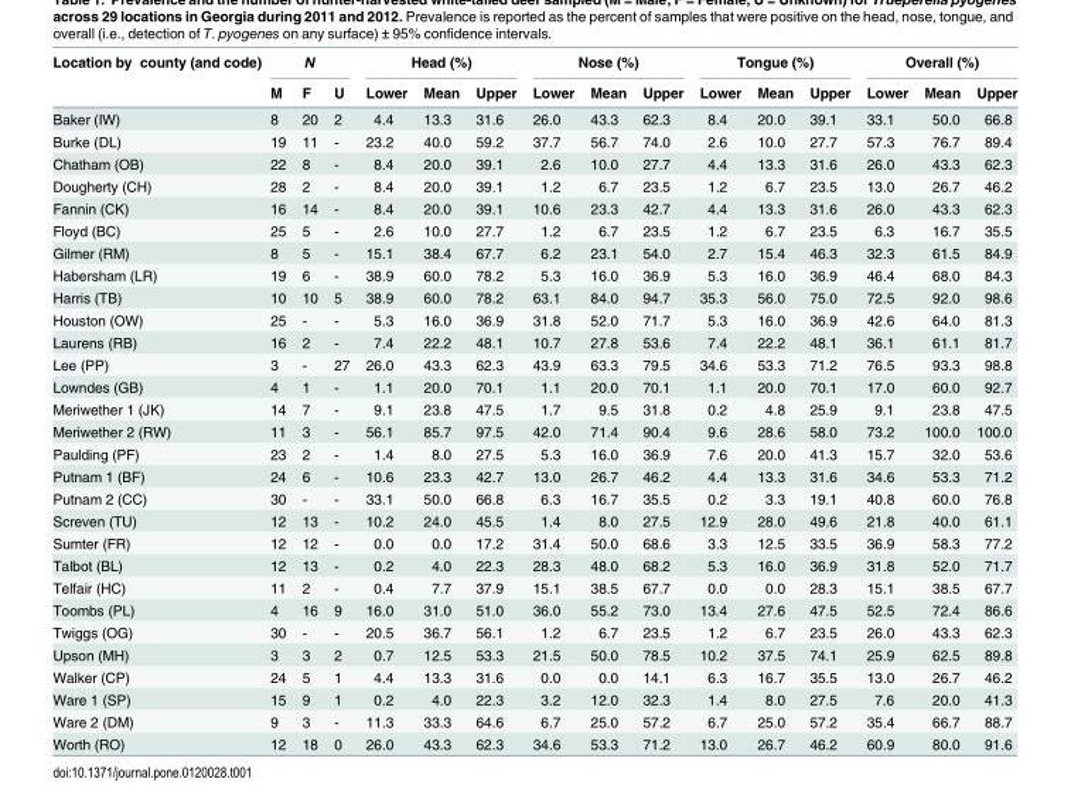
<table><thead><tr><td rowspan="2">Location by county (and code)</td><td colspan="3">N</td><td colspan="3">Head (%)</td><td colspan="3">Nose (%)</td><td colspan="3">Tongue (%)</td><td colspan="3">Overall (%)</td></tr><tr><td>M</td><td>F</td><td>U</td><td>Lower</td><td>Mean</td><td>Upper</td><td>Lower</td><td>Mean</td><td>Upper</td><td>Lower</td><td>Mean</td><td>Upper</td><td>Lower</td><td>Mean</td><td>Upper</td></tr></thead><tbody><tr><td>Baker (IW)</td><td>8</td><td>20</td><td>2</td><td>4.4</td><td>13.3</td><td>31.6</td><td>26.0</td><td>43.3</td><td>62.3</td><td>8.4</td><td>20.0</td><td>39.1</td><td>33.1</td><td>50.0</td><td>66.8</td></tr><tr><td>Burke (DL)</td><td>19</td><td>11</td><td>-</td><td>23.2</td><td>40.0</td><td>59.2</td><td>37.7</td><td>56.7</td><td>74.0</td><td>2.6</td><td>10.0</td><td>27.7</td><td>57.3</td><td>76.7</td><td>89.4</td></tr><tr><td>Chatham (OB)</td><td>22</td><td>8</td><td>-</td><td>8.4</td><td>20.0</td><td>39.1</td><td>2.6</td><td>10.0</td><td>27.7</td><td>4.4</td><td>13.3</td><td>31.6</td><td>26.0</td><td>43.3</td><td>62.3</td></tr><tr><td>Dougherty (CH)</td><td>28</td><td>2</td><td>-</td><td>8.4</td><td>20.0</td><td>39.1</td><td>1.2</td><td>6.7</td><td>23.5</td><td>1.2</td><td>6.7</td><td>23.5</td><td>13.0</td><td>26.7</td><td>46.2</td></tr><tr><td>Fannin (CK)</td><td>16</td><td>14</td><td>-</td><td>8.4</td><td>20.0</td><td>39.1</td><td>10.6</td><td>23.3</td><td>42.7</td><td>4.4</td><td>13.3</td><td>31.6</td><td>26.0</td><td>43.3</td><td>62.3</td></tr><tr><td>Floyd (BC)</td><td>25</td><td>5</td><td>-</td><td>2.6</td><td>10.0</td><td>27.7</td><td>1.2</td><td>6.7</td><td>23.5</td><td>1.2</td><td>6.7</td><td>23.5</td><td>6.3</td><td>16.7</td><td>35.5</td></tr><tr><td>Gilmer (RM)</td><td>8</td><td>5</td><td>-</td><td>15.1</td><td>38.4</td><td>67.7</td><td>6.2</td><td>23.1</td><td>54.0</td><td>2.7</td><td>15.4</td><td>46.3</td><td>32.3</td><td>61.5</td><td>84.9</td></tr><tr><td>Habersham (LR)</td><td>19</td><td>6</td><td>-</td><td>38.9</td><td>60.0</td><td>78.2</td><td>5.3</td><td>16.0</td><td>36.9</td><td>5.3</td><td>16.0</td><td>36.9</td><td>46.4</td><td>68.0</td><td>84.3</td></tr><tr><td>Harris (TB)</td><td>10</td><td>10</td><td>5</td><td>38.9</td><td>60.0</td><td>78.2</td><td>63.1</td><td>84.0</td><td>94.7</td><td>35.3</td><td>56.0</td><td>75.0</td><td>72.5</td><td>92.0</td><td>98.6</td></tr><tr><td>Houston (OW)</td><td>25</td><td>-</td><td>-</td><td>5.3</td><td>16.0</td><td>36.9</td><td>31.8</td><td>52.0</td><td>71.7</td><td>5.3</td><td>16.0</td><td>36.9</td><td>42.6</td><td>64.0</td><td>81.3</td></tr><tr><td>Laurens (RB)</td><td>16</td><td>2</td><td>-</td><td>7.4</td><td>22.2</td><td>48.1</td><td>10.7</td><td>27.8</td><td>53.6</td><td>7.4</td><td>22.2</td><td>48.1</td><td>36.1</td><td>61.1</td><td>81.7</td></tr><tr><td>Lee (PP)</td><td>3</td><td>-</td><td>27</td><td>26.0</td><td>43.3</td><td>62.3</td><td>43.9</td><td>63.3</td><td>79.5</td><td>34.6</td><td>53.3</td><td>71.2</td><td>76.5</td><td>93.3</td><td>98.8</td></tr><tr><td>Lowndes (GB)</td><td>4</td><td>1</td><td>-</td><td>1.1</td><td>20.0</td><td>70.1</td><td>1.1</td><td>20.0</td><td>70.1</td><td>1.1</td><td>20.0</td><td>70.1</td><td>17.0</td><td>60.0</td><td>92.7</td></tr><tr><td>Meriwether 1 (JK)</td><td>14</td><td>7</td><td>-</td><td>9.1</td><td>23.8</td><td>47.5</td><td>1.7</td><td>9.5</td><td>31.8</td><td>0.2</td><td>4.8</td><td>25.9</td><td>9.1</td><td>23.8</td><td>47.5</td></tr><tr><td>Meriwether 2 (RW)</td><td>11</td><td>3</td><td>-</td><td>56.1</td><td>85.7</td><td>97.5</td><td>42.0</td><td>71.4</td><td>90.4</td><td>9.6</td><td>28.6</td><td>58.0</td><td>73.2</td><td>100.0</td><td>100.0</td></tr><tr><td>Paulding (PF)</td><td>23</td><td>2</td><td>-</td><td>1.4</td><td>8.0</td><td>27.5</td><td>5.3</td><td>16.0</td><td>36.9</td><td>7.6</td><td>20.0</td><td>41.3</td><td>15.7</td><td>32.0</td><td>53.6</td></tr><tr><td>Putnam 1 (BF)</td><td>24</td><td>6</td><td>-</td><td>10.6</td><td>23.3</td><td>42.7</td><td>13.0</td><td>26.7</td><td>46.2</td><td>4.4</td><td>13.3</td><td>31.6</td><td>34.6</td><td>53.3</td><td>71.2</td></tr><tr><td>Putnam 2 (CC)</td><td>30</td><td>-</td><td>-</td><td>33.1</td><td>50.0</td><td>66.8</td><td>6.3</td><td>16.7</td><td>35.5</td><td>0.2</td><td>3.3</td><td>19.1</td><td>40.8</td><td>60.0</td><td>76.8</td></tr><tr><td>Screven (TU)</td><td>12</td><td>13</td><td>-</td><td>10.2</td><td>24.0</td><td>45.5</td><td>1.4</td><td>8.0</td><td>27.5</td><td>12.9</td><td>28.0</td><td>49.6</td><td>21.8</td><td>40.0</td><td>61.1</td></tr><tr><td>Sumter (FR)</td><td>12</td><td>12</td><td>-</td><td>0.0</td><td>0.0</td><td>17.2</td><td>31.4</td><td>50.0</td><td>68.6</td><td>3.3</td><td>12.5</td><td>33.5</td><td>36.9</td><td>58.3</td><td>77.2</td></tr><tr><td>Talbot (BL)</td><td>12</td><td>13</td><td>-</td><td>0.2</td><td>4.0</td><td>22.3</td><td>28.3</td><td>48.0</td><td>68.2</td><td>5.3</td><td>16.0</td><td>36.9</td><td>31.8</td><td>52.0</td><td>71.7</td></tr><tr><td>Telfair (HC)</td><td>11</td><td>2</td><td>-</td><td>0.4</td><td>7.7</td><td>37.9</td><td>15.1</td><td>38.5</td><td>67.7</td><td>0.0</td><td>0.0</td><td>28.3</td><td>15.1</td><td>38.5</td><td>67.7</td></tr><tr><td>Toombs (PL)</td><td>4</td><td>16</td><td>9</td><td>16.0</td><td>31.0</td><td>51.0</td><td>36.0</td><td>55.2</td><td>73.0</td><td>13.4</td><td>27.6</td><td>47.5</td><td>52.5</td><td>72.4</td><td>86.6</td></tr><tr><td>Twiggs (OG)</td><td>30</td><td>-</td><td>-</td><td>20.5</td><td>36.7</td><td>56.1</td><td>1.2</td><td>6.7</td><td>23.5</td><td>1.2</td><td>6.7</td><td>23.5</td><td>26.0</td><td>43.3</td><td>62.3</td></tr><tr><td>Upson (MH)</td><td>3</td><td>3</td><td>2</td><td>0.7</td><td>12.5</td><td>53.3</td><td>21.5</td><td>50.0</td><td>78.5</td><td>10.2</td><td>37.5</td><td>74.1</td><td>25.9</td><td>62.5</td><td>89.8</td></tr><tr><td>Walker (CP)</td><td>24</td><td>5</td><td>1</td><td>4.4</td><td>13.3</td><td>31.6</td><td>0.0</td><td>0.0</td><td>14.1</td><td>6.3</td><td>16.7</td><td>35.5</td><td>13.0</td><td>26.7</td><td>46.2</td></tr><tr><td>Ware 1 (SP)</td><td>15</td><td>9</td><td>1</td><td>0.2</td><td>4.0</td><td>22.3</td><td>3.2</td><td>12.0</td><td>32.3</td><td>1.4</td><td>8.0</td><td>27.5</td><td>7.6</td><td>20.0</td><td>41.3</td></tr><tr><td>Ware 2 (DM)</td><td>9</td><td>3</td><td>-</td><td>11.3</td><td>33.3</td><td>64.6</td><td>6.7</td><td>25.0</td><td>57.2</td><td>6.7</td><td>25.0</td><td>57.2</td><td>35.4</td><td>66.7</td><td>88.7</td></tr><tr><td>Worth (RO)</td><td>12</td><td>18</td><td>0</td><td>26.0</td><td>43.3</td><td>62.3</td><td>34.6</td><td>53.3</td><td>71.2</td><td>13.0</td><td>26.7</td><td>46.2</td><td>60.9</td><td>80.0</td><td>91.6</td></tr></tbody></table>